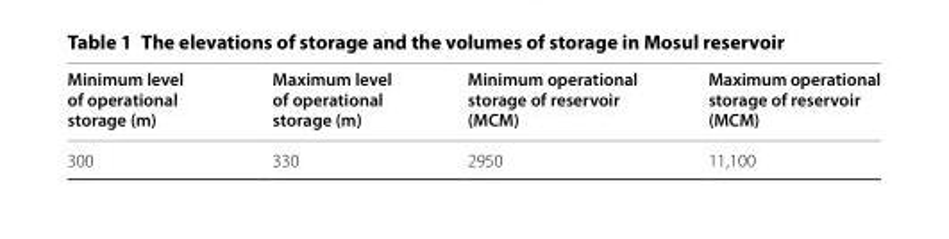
<table><thead><tr><td>Minimum level of operational storage (m)</td><td>Maximum level of operational storage (m)</td><td>Minimum operational storage of reservoir (MCM)</td><td>Maximum operational storage of reservoir (MCM)</td></tr></thead><tbody><tr><td>300</td><td>330</td><td>2950</td><td>11,100</td></tr></tbody></table>